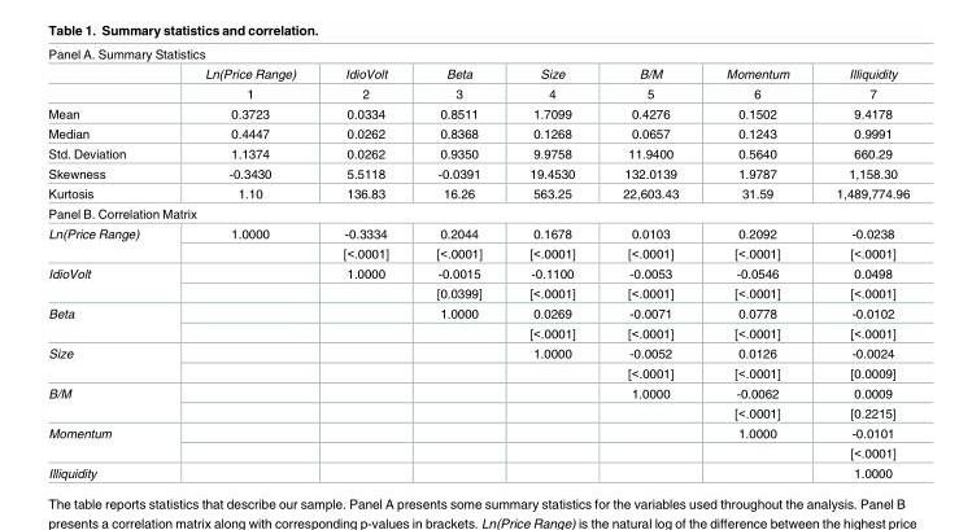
<table><tbody><tr><td colspan="8">Panel A. Summary Statistics</td></tr><tr><td></td><td>Ln(Price Range)</td><td>IdioVolt</td><td>Beta</td><td>Size</td><td>B/M</td><td>Momentum</td><td>Illiquidity</td></tr><tr><td></td><td>1</td><td>2</td><td>3</td><td>4</td><td>5</td><td>6</td><td>7</td></tr><tr><td>Mean</td><td>0.3723</td><td>0.0334</td><td>0.8511</td><td>1.7099</td><td>0.4276</td><td>0.1502</td><td>9.4178</td></tr><tr><td>Median</td><td>0.4447</td><td>0.0262</td><td>0.8368</td><td>0.1268</td><td>0.0657</td><td>0.1243</td><td>0.9991</td></tr><tr><td>Std. Deviation</td><td>1.1374</td><td>0.0262</td><td>0.9350</td><td>9.9758</td><td>11.9400</td><td>0.5640</td><td>660.29</td></tr><tr><td>Skewness</td><td>-0.3430</td><td>5.5118</td><td>-0.0391</td><td>19.4530</td><td>132.0139</td><td>1.9787</td><td>1,158.30</td></tr><tr><td>Kurtosis</td><td>1.10</td><td>136.83</td><td>16.26</td><td>563.25</td><td>22,603.43</td><td>31.59</td><td>1,489,774.96</td></tr><tr><td colspan="8">Panel B. Correlation Matrix</td></tr><tr><td rowspan="2">Ln(Price Range)</td><td>1.0000</td><td>-0.3334</td><td>0.2044</td><td>0.1678</td><td>0.0103</td><td>0.2092</td><td>-0.0238</td></tr><tr><td></td><td>[&lt;.0001]</td><td>[&lt;.0001]</td><td>[&lt;.0001]</td><td>[&lt;.0001]</td><td>[&lt;.0001]</td><td>[&lt;.0001]</td></tr><tr><td rowspan="2">IdioVolt</td><td></td><td>1.0000</td><td>-0.0015</td><td>-0.1100</td><td>-0.0053</td><td>-0.0546</td><td>0.0498</td></tr><tr><td></td><td></td><td>[0.0399]</td><td>[&lt;.0001]</td><td>[&lt;.0001]</td><td>[&lt;.0001]</td><td>[&lt;.0001]</td></tr><tr><td rowspan="2">Beta</td><td></td><td></td><td>1.0000</td><td>0.0269</td><td>-0.0071</td><td>0.0778</td><td>-0.0102</td></tr><tr><td></td><td></td><td></td><td>[&lt;.0001]</td><td>[&lt;.0001]</td><td>[&lt;.0001]</td><td>[&lt;.0001]</td></tr><tr><td rowspan="2">Size</td><td></td><td></td><td></td><td>1.0000</td><td>-0.0052</td><td>0.0126</td><td>-0.0024</td></tr><tr><td></td><td></td><td></td><td></td><td>[&lt;.0001]</td><td>[&lt;.0001]</td><td>[0.0009]</td></tr><tr><td rowspan="2">B/M</td><td></td><td></td><td></td><td></td><td>1.0000</td><td>-0.0062</td><td>0.0009</td></tr><tr><td></td><td></td><td></td><td></td><td></td><td>[&lt;.0001]</td><td>[0.2215]</td></tr><tr><td rowspan="2">Momentum</td><td></td><td></td><td></td><td></td><td></td><td>1.0000</td><td>-0.0101</td></tr><tr><td></td><td></td><td></td><td></td><td></td><td></td><td>[&lt;.0001]</td></tr><tr><td>Illiquidity</td><td></td><td></td><td></td><td></td><td></td><td></td><td>1.0000</td></tr></tbody></table>